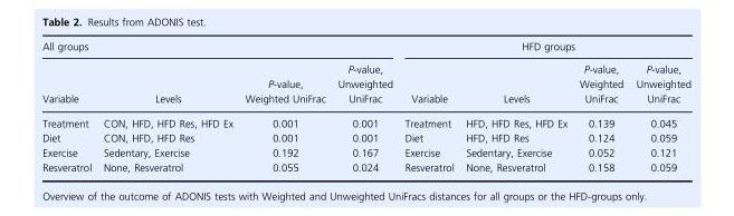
<table><thead><tr><td colspan="4">All groups</td><td colspan="4">HFD groups</td></tr><tr><td>Variable</td><td>Levels</td><td>P-value, Weighted UniFrac</td><td>P-value, Unweighted UniFrac</td><td>Variable</td><td>Levels</td><td>P-value, Weighted UniFrac</td><td>P-value, Unweighted UniFrac</td></tr></thead><tbody><tr><td>Treatment</td><td>CON, HFD, HFD Res, HFD Ex</td><td>0.001</td><td>0.001</td><td>Treatment</td><td>HFD, HFD Res, HFD Ex</td><td>0.139</td><td>0.045</td></tr><tr><td>Diet</td><td>CON, HFD, HFD Res</td><td>0.001</td><td>0.001</td><td>Diet</td><td>HFD, HFD Res</td><td>0.124</td><td>0.059</td></tr><tr><td>Exercise</td><td>Sedentary, Exercise</td><td>0.192</td><td>0.167</td><td>Exercise</td><td>Sedentary, Exercise</td><td>0.052</td><td>0.121</td></tr><tr><td>Resveratrol</td><td>None, Resveratrol</td><td>0.055</td><td>0.024</td><td>Resveratrol</td><td>None, Resveratrol</td><td>0.158</td><td>0.059</td></tr></tbody></table>